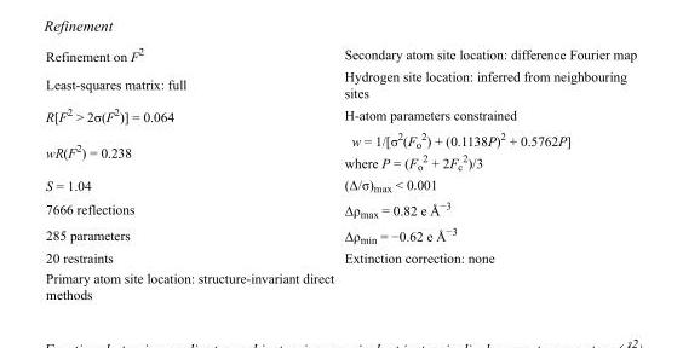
<table><tbody><tr><td>Refinement on F<sup>2</sup></td><td>Secondary atom site location: difference Fourier map</td></tr><tr><td>Least-squares matrix: full</td><td>Hydrogen site location: inferred from neighbouring sites</td></tr><tr><td>R[F<sup>2</sup> &gt; 2σ(F<sup>2</sup>)] = 0.064</td><td>H-atom parameters constrained</td></tr><tr><td>wR(F<sup>2</sup>) = 0.238</td><td>w = 1/[σ<sup>2</sup>(F<sub>o</sub> <sup>2</sup>) + (0.1138P)<sup>2</sup> + 0.5762P] where P = (F<sub>o</sub> <sup>2</sup> + 2F<sub>c</sub> <sup>2</sup>)/3</td></tr><tr><td>S = 1.04</td><td>(Δ/σ)<sub>max</sub> &lt; 0.001</td></tr><tr><td>7666 reflections</td><td>Δρ<sub>max</sub> = 0.82 e Å<sup>−3</sup></td></tr><tr><td>285 parameters</td><td>Δρ<sub>min</sub> = −0.62 e Å<sup>−3</sup></td></tr><tr><td>20 restraints</td><td>Extinction correction: none</td></tr><tr><td>Primary atom site location: structure-invariant direct methods</td><td></td></tr></tbody></table>